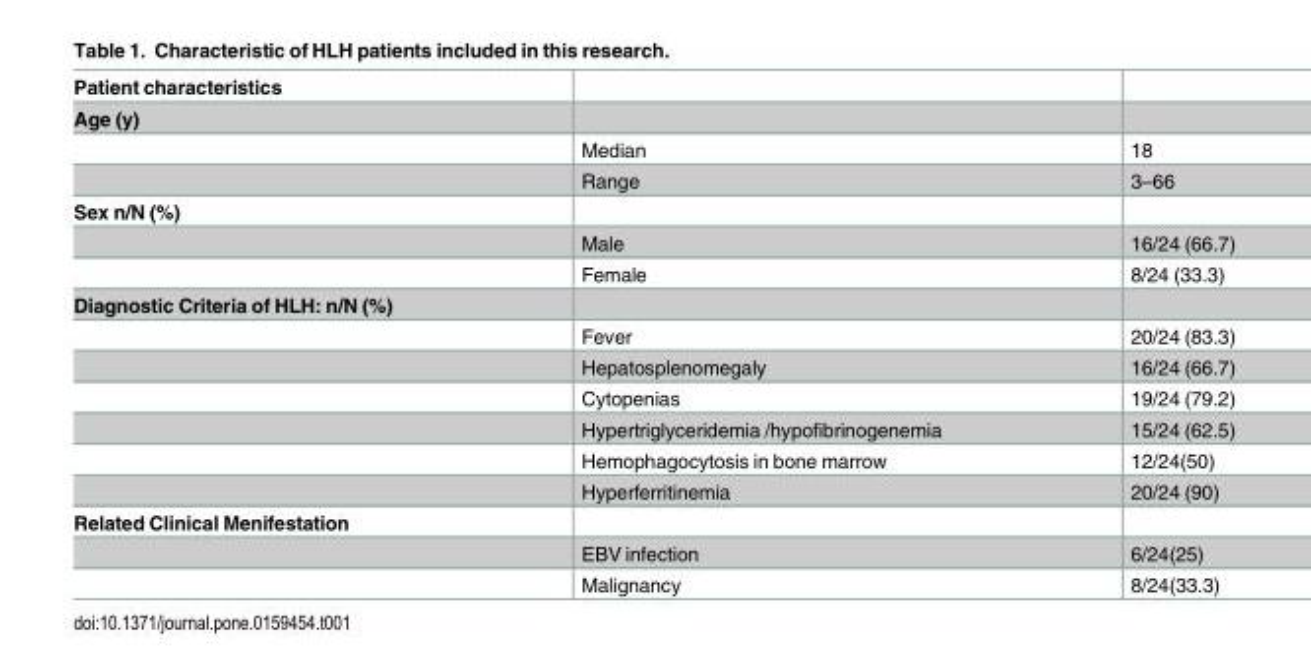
<table><thead><tr><td>Patient characteristics</td><td></td><td></td></tr></thead><tbody><tr><td colspan="3">Age (y)</td></tr><tr><td></td><td>Median</td><td>18</td></tr><tr><td></td><td>Range</td><td>3–66</td></tr><tr><td colspan="3">Sex n/N (%)</td></tr><tr><td></td><td>Male</td><td>16/24 (66.7)</td></tr><tr><td></td><td>Female</td><td>8/24 (33.3)</td></tr><tr><td colspan="3">Diagnostic Criteria of HLH: n/N (%)</td></tr><tr><td></td><td>Fever</td><td>20/24 (83.3)</td></tr><tr><td></td><td>Hepatosplenomegaly</td><td>16/24 (66.7)</td></tr><tr><td></td><td>Cytopenias</td><td>19/24 (79.2)</td></tr><tr><td></td><td>Hypertriglyceridemia /hypofibrinogenemia</td><td>15/24 (62.5)</td></tr><tr><td></td><td>Hemophagocytosis in bone marrow</td><td>12/24(50)</td></tr><tr><td></td><td>Hyperferritinemia</td><td>20/24 (90)</td></tr><tr><td colspan="3">Related Clinical Menifestation</td></tr><tr><td></td><td>EBV infection</td><td>6/24(25)</td></tr><tr><td></td><td>Malignancy</td><td>8/24(33.3)</td></tr></tbody></table>